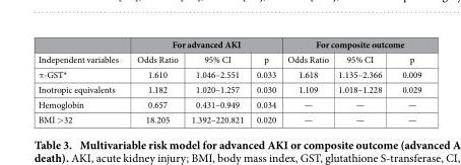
<table><thead><tr><td rowspan="2">Independent variables</td><td colspan="3">For advanced AKI</td><td colspan="3">For composite outcome</td></tr><tr><td>Odds Ratio</td><td>95% CI</td><td>p</td><td>Odds Ratio</td><td>95% CI</td><td>p</td></tr></thead><tbody><tr><td>π -GST*</td><td>1.610</td><td>1.046–2.551</td><td>0.033</td><td>1.618</td><td>1.135–2.366</td><td>0.009</td></tr><tr><td>Inotropic equivalents</td><td>1.182</td><td>1.020–1.257</td><td>0.030</td><td>1.109</td><td>1.018–1.228</td><td>0.029</td></tr><tr><td>Hemoglobin</td><td>0.657</td><td>0.431–0.949</td><td>0.034</td><td>—</td><td>—</td><td>—</td></tr><tr><td>BMI &gt; 32</td><td>18.205</td><td>1.392–220.821</td><td>0.020</td><td>—</td><td>—</td><td>—</td></tr></tbody></table>